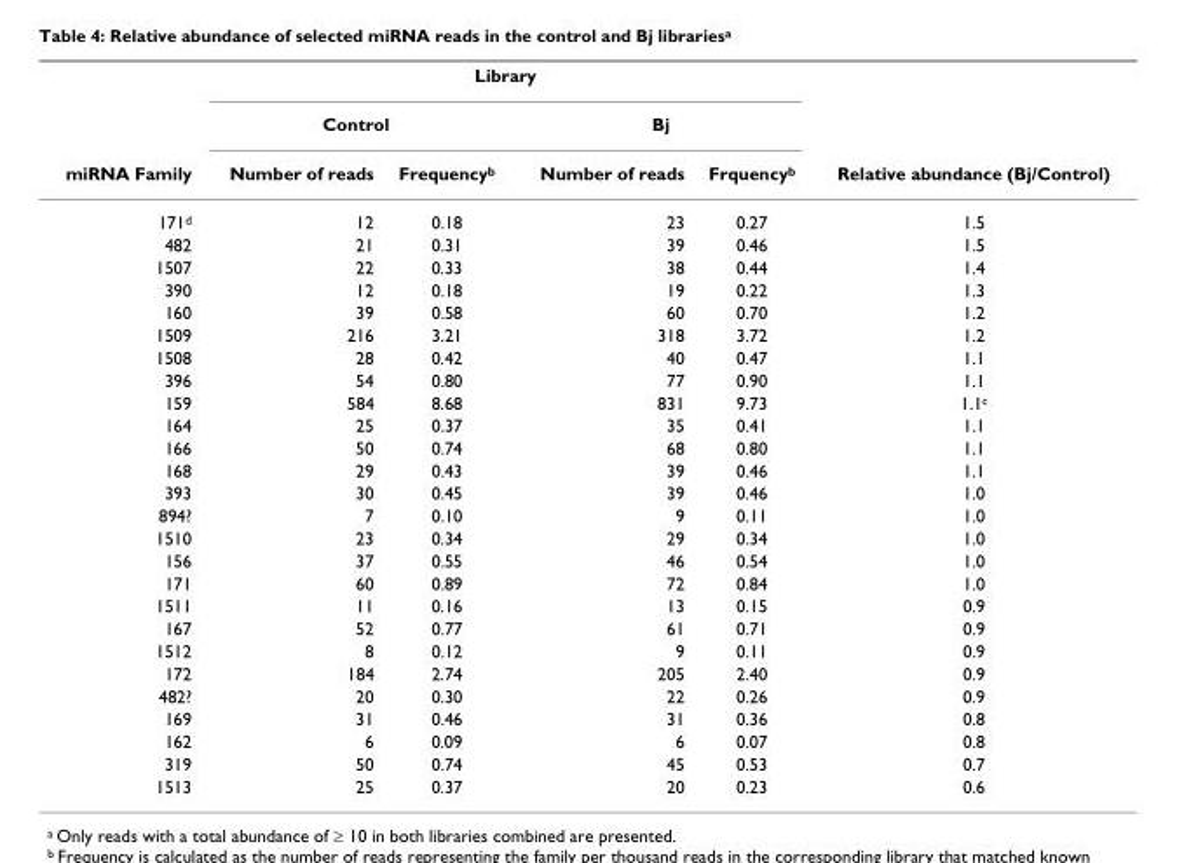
<table><thead><tr><td rowspan="3">miRNA Family</td><td colspan="4">Library</td><td rowspan="3">Relative abundance (Bj/Control)</td></tr><tr><td colspan="2">Control</td><td colspan="2">Bj</td></tr><tr><td>Number of reads</td><td>Frequency<sup>b</sup></td><td>Number of reads</td><td>Frquency<sup>b</sup></td></tr></thead><tbody><tr><td>171<sup>d</sup></td><td>12</td><td>0.18</td><td>23</td><td>0.27</td><td>1.5</td></tr><tr><td>482</td><td>21</td><td>0.31</td><td>39</td><td>0.46</td><td>1.5</td></tr><tr><td>1507</td><td>22</td><td>0.33</td><td>38</td><td>0.44</td><td>1.4</td></tr><tr><td>390</td><td>12</td><td>0.18</td><td>19</td><td>0.22</td><td>1.3</td></tr><tr><td>160</td><td>39</td><td>0.58</td><td>60</td><td>0.70</td><td>1.2</td></tr><tr><td>1509</td><td>216</td><td>3.21</td><td>318</td><td>3.72</td><td>1.2</td></tr><tr><td>1508</td><td>28</td><td>0.42</td><td>40</td><td>0.47</td><td>1.1</td></tr><tr><td>396</td><td>54</td><td>0.80</td><td>77</td><td>0.90</td><td>1.1</td></tr><tr><td>159</td><td>584</td><td>8.68</td><td>831</td><td>9.73</td><td>1.1<sup>c</sup></td></tr><tr><td>164</td><td>25</td><td>0.37</td><td>35</td><td>0.41</td><td>1.1</td></tr><tr><td>166</td><td>50</td><td>0.74</td><td>68</td><td>0.80</td><td>1.1</td></tr><tr><td>168</td><td>29</td><td>0.43</td><td>39</td><td>0.46</td><td>1.1</td></tr><tr><td>393</td><td>30</td><td>0.45</td><td>39</td><td>0.46</td><td>1.0</td></tr><tr><td>894?</td><td>7</td><td>0.10</td><td>9</td><td>0.11</td><td>1.0</td></tr><tr><td>1510</td><td>23</td><td>0.34</td><td>29</td><td>0.34</td><td>1.0</td></tr><tr><td>156</td><td>37</td><td>0.55</td><td>46</td><td>0.54</td><td>1.0</td></tr><tr><td>171</td><td>60</td><td>0.89</td><td>72</td><td>0.84</td><td>1.0</td></tr><tr><td>1511</td><td>11</td><td>0.16</td><td>13</td><td>0.15</td><td>0.9</td></tr><tr><td>167</td><td>52</td><td>0.77</td><td>61</td><td>0.71</td><td>0.9</td></tr><tr><td>1512</td><td>8</td><td>0.12</td><td>9</td><td>0.11</td><td>0.9</td></tr><tr><td>172</td><td>184</td><td>2.74</td><td>205</td><td>2.40</td><td>0.9</td></tr><tr><td>482?</td><td>20</td><td>0.30</td><td>22</td><td>0.26</td><td>0.9</td></tr><tr><td>169</td><td>31</td><td>0.46</td><td>31</td><td>0.36</td><td>0.8</td></tr><tr><td>162</td><td>6</td><td>0.09</td><td>6</td><td>0.07</td><td>0.8</td></tr><tr><td>319</td><td>50</td><td>0.74</td><td>45</td><td>0.53</td><td>0.7</td></tr><tr><td>1513</td><td>25</td><td>0.37</td><td>20</td><td>0.23</td><td>0.6</td></tr></tbody></table>